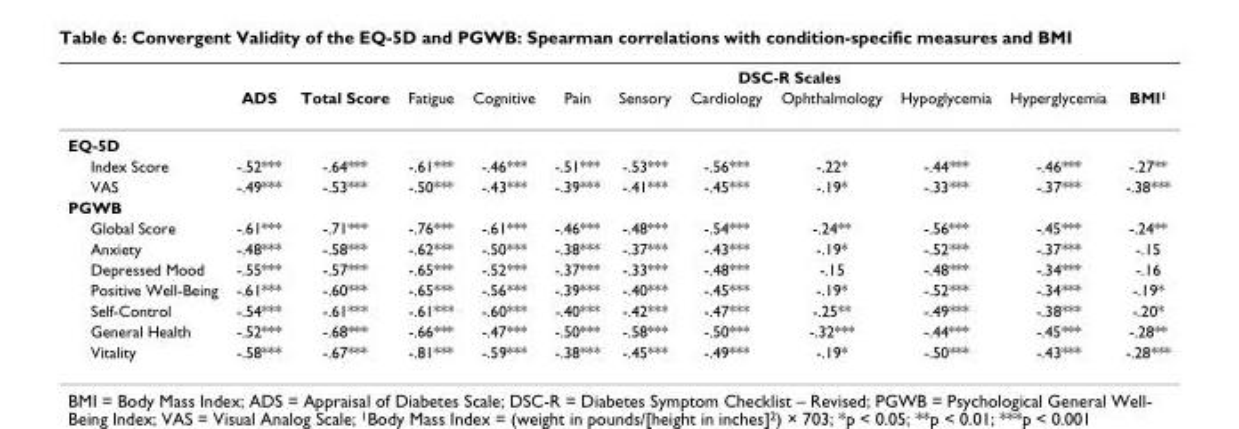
<table><thead><tr><td rowspan="2"></td><td rowspan="2">ADS</td><td rowspan="2">Total Score</td><td colspan="9">DSC-R Scales</td></tr><tr><td>Fatigue</td><td>Cognitive</td><td>Pain</td><td>Sensory</td><td>Cardiology</td><td>Ophthalmology</td><td>Hypoglycemia</td><td>Hyperglycemia</td><td>BMI<sup>1</sup></td></tr></thead><tbody><tr><td colspan="12">EQ-5D</td></tr><tr><td>Index Score</td><td>-.52***</td><td>-.64***</td><td>-.61***</td><td>-.46***</td><td>-.51***</td><td>-.53***</td><td>-.56***</td><td>-.22*</td><td>-.44***</td><td>-.46***</td><td>-.27**</td></tr><tr><td>VAS</td><td>-.49***</td><td>-.53***</td><td>-.50***</td><td>-.43***</td><td>-.39***</td><td>-.41***</td><td>-.45***</td><td>-.19*</td><td>-.33***</td><td>-.37***</td><td>-.38***</td></tr><tr><td colspan="12">PGWB</td></tr><tr><td>Global Score</td><td>-.61***</td><td>-.71***</td><td>-.76***</td><td>-.61***</td><td>-.46***</td><td>-.48***</td><td>-.54***</td><td>-.24**</td><td>-.56***</td><td>-.45***</td><td>-.24**</td></tr><tr><td>Anxiety</td><td>-.48***</td><td>-.58***</td><td>-.62***</td><td>-.50***</td><td>-.38***</td><td>-.37***</td><td>-.43***</td><td>-.19*</td><td>-.52***</td><td>-.37***</td><td>-.15</td></tr><tr><td>Depressed Mood</td><td>-.55***</td><td>-.57***</td><td>-.65***</td><td>-.52***</td><td>-.37***</td><td>-.33***</td><td>-.48***</td><td>-.15</td><td>-.48***</td><td>-.34***</td><td>-.16</td></tr><tr><td>Positive Well-Being</td><td>-.61***</td><td>-.60***</td><td>-.65***</td><td>-.56***</td><td>-.39***</td><td>-.40***</td><td>-.45***</td><td>-.19*</td><td>-.52***</td><td>-.34***</td><td>-.19*</td></tr><tr><td>Self-Control</td><td>-.54***</td><td>-.61***</td><td>-.61***</td><td>-.60***</td><td>-.40***</td><td>-.42***</td><td>-.47***</td><td>-.25**</td><td>-.49***</td><td>-.38***</td><td>-.20*</td></tr><tr><td>General Health</td><td>-.52***</td><td>-.68***</td><td>-.66***</td><td>-.47***</td><td>-.50***</td><td>-.58***</td><td>-.50***</td><td>-.32***</td><td>-.44***</td><td>-.45***</td><td>-.28**</td></tr><tr><td>Vitality</td><td>-.58***</td><td>-.67***</td><td>-.81***</td><td>-.59***</td><td>-.38***</td><td>-.45***</td><td>-.49***</td><td>-.19*</td><td>-.50***</td><td>-.43***</td><td>-.28***</td></tr></tbody></table>